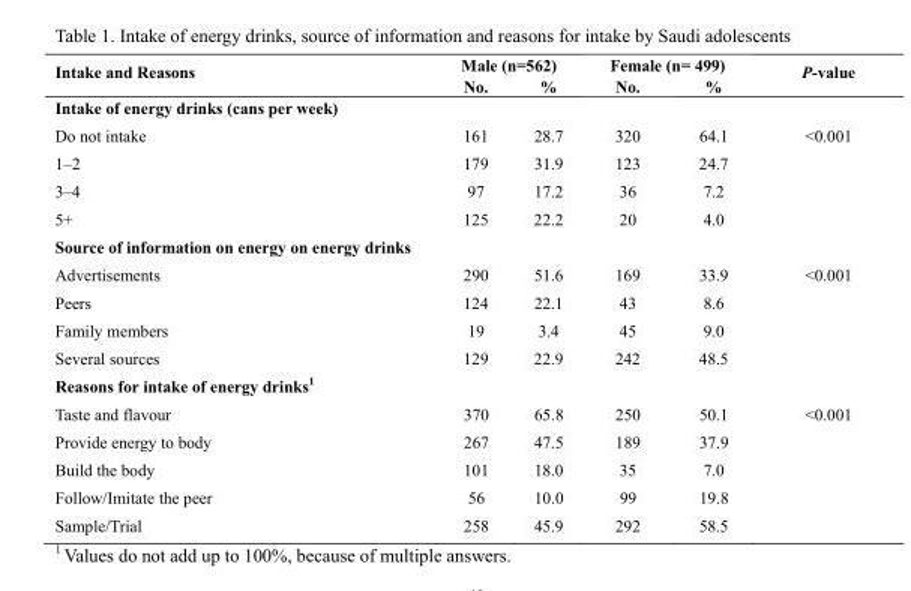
<table><thead><tr><td rowspan="2">Intake and Reasons</td><td colspan="2">Male (n=562)</td><td colspan="2">Female (n= 499)</td><td rowspan="2">P-value</td></tr><tr><td>No.</td><td>%</td><td>No.</td><td>%</td></tr></thead><tbody><tr><td colspan="6">Intake of energy drinks (cans per week)</td></tr><tr><td>Do not intake</td><td>161</td><td>28.7</td><td>320</td><td>64.1</td><td>&lt;0.001</td></tr><tr><td>1–2</td><td>179</td><td>31.9</td><td>123</td><td>24.7</td><td></td></tr><tr><td>3–4</td><td>97</td><td>17.2</td><td>36</td><td>7.2</td><td></td></tr><tr><td>5+</td><td>125</td><td>22.2</td><td>20</td><td>4.0</td><td></td></tr><tr><td colspan="6">Source of information on energy on energy drinks</td></tr><tr><td>Advertisements</td><td>290</td><td>51.6</td><td>169</td><td>33.9</td><td>&lt;0.001</td></tr><tr><td>Peers</td><td>124</td><td>22.1</td><td>43</td><td>8.6</td><td></td></tr><tr><td>Family members</td><td>19</td><td>3.4</td><td>45</td><td>9.0</td><td></td></tr><tr><td>Several sources</td><td>129</td><td>22.9</td><td>242</td><td>48.5</td><td></td></tr><tr><td colspan="6">Reasons for intake of energy drinks<sup>1</sup></td></tr><tr><td>Taste and flavour</td><td>370</td><td>65.8</td><td>250</td><td>50.1</td><td>&lt;0.001</td></tr><tr><td>Provide energy to body</td><td>267</td><td>47.5</td><td>189</td><td>37.9</td><td></td></tr><tr><td>Build the body</td><td>101</td><td>18.0</td><td>35</td><td>7.0</td><td></td></tr><tr><td>Follow/Imitate the peer</td><td>56</td><td>10.0</td><td>99</td><td>19.8</td><td></td></tr><tr><td>Sample/Trial</td><td>258</td><td>45.9</td><td>292</td><td>58.5</td><td></td></tr></tbody></table>